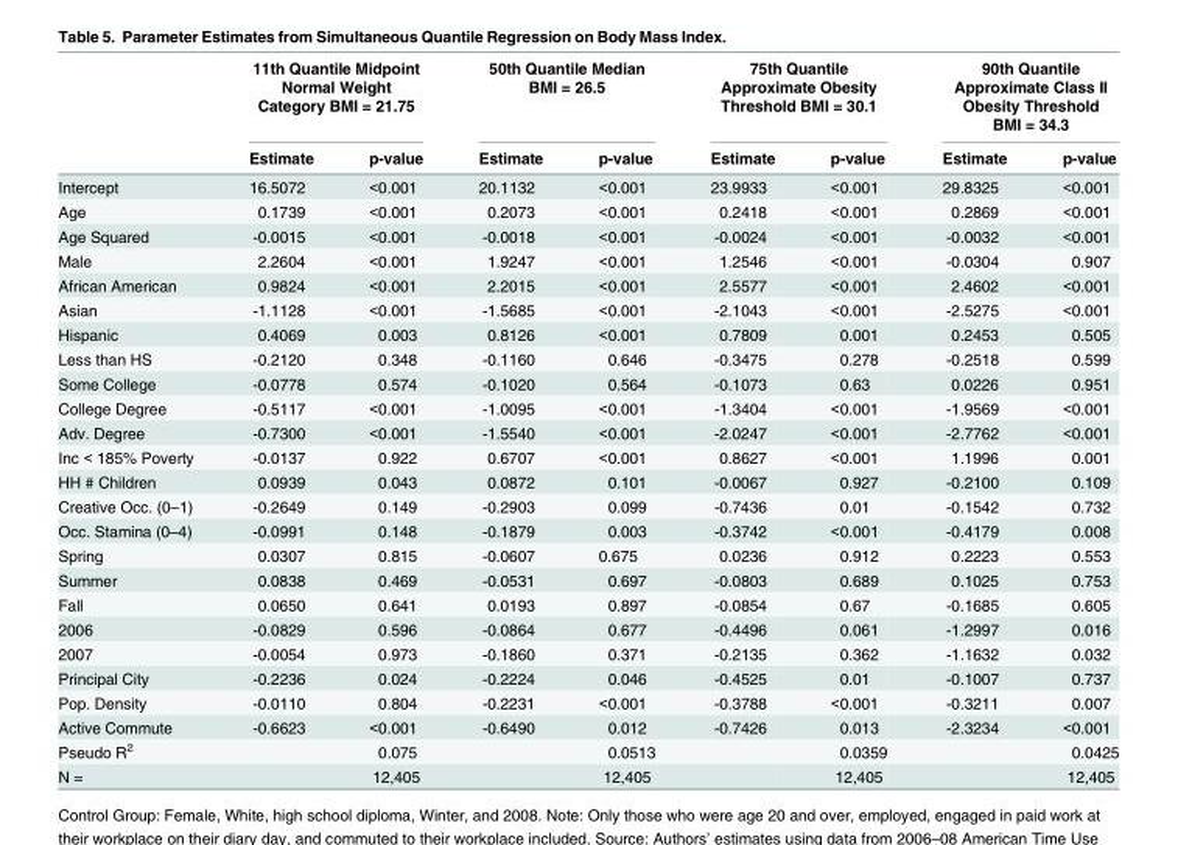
<table><thead><tr><td rowspan="2"></td><td colspan="2">11th Quantile Midpoint Normal Weight Category BMI = 21.75</td><td colspan="2">50th Quantile Median BMI = 26.5</td><td colspan="2">75th Quantile Approximate Obesity Threshold BMI = 30.1</td><td colspan="2">90th Quantile Approximate Class II Obesity Threshold BMI = 34.3</td></tr><tr><td>Estimate</td><td>p-value</td><td>Estimate</td><td>p-value</td><td>Estimate</td><td>p-value</td><td>Estimate</td><td>p-value</td></tr></thead><tbody><tr><td>Intercept</td><td>16.5072</td><td>&lt;0.001</td><td>20.1132</td><td>&lt;0.001</td><td>23.9933</td><td>&lt;0.001</td><td>29.8325</td><td>&lt;0.001</td></tr><tr><td>Age</td><td>0.1739</td><td>&lt;0.001</td><td>0.2073</td><td>&lt;0.001</td><td>0.2418</td><td>&lt;0.001</td><td>0.2869</td><td>&lt;0.001</td></tr><tr><td>Age Squared</td><td>-0.0015</td><td>&lt;0.001</td><td>-0.0018</td><td>&lt;0.001</td><td>-0.0024</td><td>&lt;0.001</td><td>-0.0032</td><td>&lt;0.001</td></tr><tr><td>Male</td><td>2.2604</td><td>&lt;0.001</td><td>1.9247</td><td>&lt;0.001</td><td>1.2546</td><td>&lt;0.001</td><td>-0.0304</td><td>0.907</td></tr><tr><td>African American</td><td>0.9824</td><td>&lt;0.001</td><td>2.2015</td><td>&lt;0.001</td><td>2.5577</td><td>&lt;0.001</td><td>2.4602</td><td>&lt;0.001</td></tr><tr><td>Asian</td><td>-1.1128</td><td>&lt;0.001</td><td>-1.5685</td><td>&lt;0.001</td><td>-2.1043</td><td>&lt;0.001</td><td>-2.5275</td><td>&lt;0.001</td></tr><tr><td>Hispanic</td><td>0.4069</td><td>0.003</td><td>0.8126</td><td>&lt;0.001</td><td>0.7809</td><td>0.001</td><td>0.2453</td><td>0.505</td></tr><tr><td>Less than HS</td><td>-0.2120</td><td>0.348</td><td>-0.1160</td><td>0.646</td><td>-0.3475</td><td>0.278</td><td>-0.2518</td><td>0.599</td></tr><tr><td>Some College</td><td>-0.0778</td><td>0.574</td><td>-0.1020</td><td>0.564</td><td>-0.1073</td><td>0.63</td><td>0.0226</td><td>0.951</td></tr><tr><td>College Degree</td><td>-0.5117</td><td>&lt;0.001</td><td>-1.0095</td><td>&lt;0.001</td><td>-1.3404</td><td>&lt;0.001</td><td>-1.9569</td><td>&lt;0.001</td></tr><tr><td>Adv. Degree</td><td>-0.7300</td><td>&lt;0.001</td><td>-1.5540</td><td>&lt;0.001</td><td>-2.0247</td><td>&lt;0.001</td><td>-2.7762</td><td>&lt;0.001</td></tr><tr><td>Inc &lt; 185% Poverty</td><td>-0.0137</td><td>0.922</td><td>0.6707</td><td>&lt;0.001</td><td>0.8627</td><td>&lt;0.001</td><td>1.1996</td><td>0.001</td></tr><tr><td>HH # Children</td><td>0.0939</td><td>0.043</td><td>0.0872</td><td>0.101</td><td>-0.0067</td><td>0.927</td><td>-0.2100</td><td>0.109</td></tr><tr><td>Creative Occ. (0–1)</td><td>-0.2649</td><td>0.149</td><td>-0.2903</td><td>0.099</td><td>-0.7436</td><td>0.01</td><td>-0.1542</td><td>0.732</td></tr><tr><td>Occ. Stamina (0–4)</td><td>-0.0991</td><td>0.148</td><td>-0.1879</td><td>0.003</td><td>-0.3742</td><td>&lt;0.001</td><td>-0.4179</td><td>0.008</td></tr><tr><td>Spring</td><td>0.0307</td><td>0.815</td><td>-0.0607</td><td>0.675</td><td>0.0236</td><td>0.912</td><td>0.2223</td><td>0.553</td></tr><tr><td>Summer</td><td>0.0838</td><td>0.469</td><td>-0.0531</td><td>0.697</td><td>-0.0803</td><td>0.689</td><td>0.1025</td><td>0.753</td></tr><tr><td>Fall</td><td>0.0650</td><td>0.641</td><td>0.0193</td><td>0.897</td><td>-0.0854</td><td>0.67</td><td>-0.1685</td><td>0.605</td></tr><tr><td>2006</td><td>-0.0829</td><td>0.596</td><td>-0.0864</td><td>0.677</td><td>-0.4496</td><td>0.061</td><td>-1.2997</td><td>0.016</td></tr><tr><td>2007</td><td>-0.0054</td><td>0.973</td><td>-0.1860</td><td>0.371</td><td>-0.2135</td><td>0.362</td><td>-1.1632</td><td>0.032</td></tr><tr><td>Principal City</td><td>-0.2236</td><td>0.024</td><td>-0.2224</td><td>0.046</td><td>-0.4525</td><td>0.01</td><td>-0.1007</td><td>0.737</td></tr><tr><td>Pop. Density</td><td>-0.0110</td><td>0.804</td><td>-0.2231</td><td>&lt;0.001</td><td>-0.3788</td><td>&lt;0.001</td><td>-0.3211</td><td>0.007</td></tr><tr><td>Active Commute</td><td>-0.6623</td><td>&lt;0.001</td><td>-0.6490</td><td>0.012</td><td>-0.7426</td><td>0.013</td><td>-2.3234</td><td>&lt;0.001</td></tr><tr><td>Pseudo R<sup>2</sup></td><td></td><td>0.075</td><td></td><td>0.0513</td><td></td><td>0.0359</td><td></td><td>0.0425</td></tr><tr><td>N =</td><td></td><td>12,405</td><td></td><td>12,405</td><td></td><td>12,405</td><td></td><td>12,405</td></tr></tbody></table>